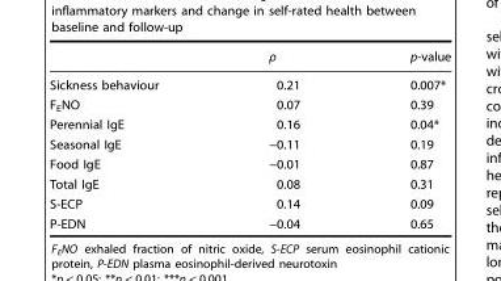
<table><thead><tr><td></td><td>ρ</td><td>p-value</td></tr></thead><tbody><tr><td>Sickness behaviour</td><td>0.21</td><td>0.007*</td></tr><tr><td>F<sub>E</sub>NO</td><td>0.07</td><td>0.39</td></tr><tr><td>Perennial IgE</td><td>0.16</td><td>0.04*</td></tr><tr><td>Seasonal IgE</td><td>−0.11</td><td>0.19</td></tr><tr><td>Food IgE</td><td>−0.01</td><td>0.87</td></tr><tr><td>Total IgE</td><td>0.08</td><td>0.31</td></tr><tr><td>S-ECP</td><td>0.14</td><td>0.09</td></tr><tr><td>P-EDN</td><td>−0.04</td><td>0.65</td></tr></tbody></table>